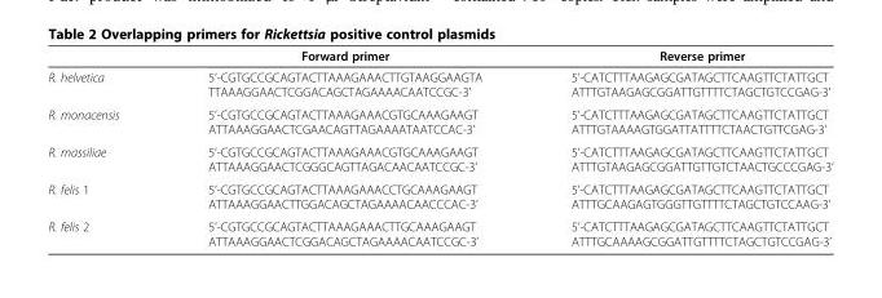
<table><thead><tr><td></td><td>Forward primer</td><td>Reverse primer</td></tr></thead><tbody><tr><td>R. helvetica</td><td>5’-CGTGCCGCAGTACTTAAAGAAACTTGTAAGGAAGTA TTAAAGGAACTCGGACAGCTAGAAAACAATCCGC-3’</td><td>5’-CATCTTTAAGAGCGATAGCTTCAAGTTCTATTGCT ATTTGTAAGAGCGGATTGTTTTCTAGCTGTCCGAG-3’</td></tr><tr><td>R. monacensis</td><td>5’-CGTGCCGCAGTACTTAAAGAAACGTGCAAAGAAGT ATTAAAGGAACTCGAACAGTTAGAAAATAATCCAC-3’</td><td>5’-CATCTTTAAGAGCGATAGCTTCAAGTTCTATTGCT ATTTGTAAAAGTGGATTATTTTCTAACTGTTCGAG-3’</td></tr><tr><td>R. massiliae</td><td>5’-CGTGCCGCAGTACTTAAAGAAACGTGCAAAGAAGT ATTAAAGGAACTCGGGCAGTTAGACAACAATCCGC-3’</td><td>5’-CATCTTTAAGAGCGATAGCTTCAAGTTCTATTGCT ATTTGTAAGAGCGGATTGTTGTCTAACTGCCCGAG-3’</td></tr><tr><td>R. felis 1</td><td>5’-CGTGCCGCAGTACTTAAAGAAACCTGCAAAGAAGT ATTAAAGGAACTTGGACAGCTAGAAAACAACCCAC-3’</td><td>5’-CATCTTTAAGAGCGATAGCTTCAAGTTCTATTGCT ATTTGCAAGAGTGGGTTGTTTTCTAGCTGTCCAAG-3’</td></tr><tr><td>R. felis 2</td><td>5’-CGTGCCGCAGTACTTAAAGAAACTTGCAAAGAAGT ATTAAAGGAACTCGGACAGCTAGAAAACAATCCGC-3’</td><td>5’-CATCTTTAAGAGCGATAGCTTCAAGTTCTATTGCT ATTTGCAAAAGCGGATTGTTTTCTAGCTGTCCGAG-3’</td></tr></tbody></table>